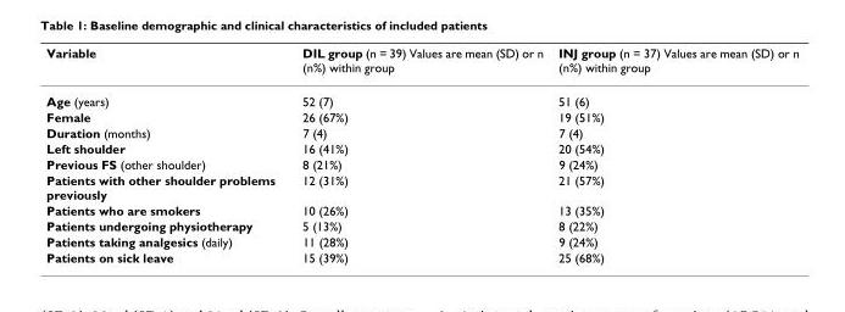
<table><thead><tr><td>Variable</td><td>DIL group (n = 39) Values are mean (SD) or n (n%) within group</td><td>INJ group (n = 37) Values are mean (SD) or n (n%) within group</td></tr></thead><tbody><tr><td>Age (years)</td><td>52 (7)</td><td>51 (6)</td></tr><tr><td>Female</td><td>26 (67%)</td><td>19 (51%)</td></tr><tr><td>Duration (months)</td><td>7 (4)</td><td>7 (4)</td></tr><tr><td>Left shoulder</td><td>16 (41%)</td><td>20 (54%)</td></tr><tr><td>Previous FS (other shoulder)</td><td>8 (21%)</td><td>9 (24%)</td></tr><tr><td>Patients with other shoulder problems previously</td><td>12 (31%)</td><td>21 (57%)</td></tr><tr><td>Patients who are smokers</td><td>10 (26%)</td><td>13 (35%)</td></tr><tr><td>Patients undergoing physiotherapy</td><td>5 (13%)</td><td>8 (22%)</td></tr><tr><td>Patients taking analgesics (daily)</td><td>11 (28%)</td><td>9 (24%)</td></tr><tr><td>Patients on sick leave</td><td>15 (39%)</td><td>25 (68%)</td></tr></tbody></table>